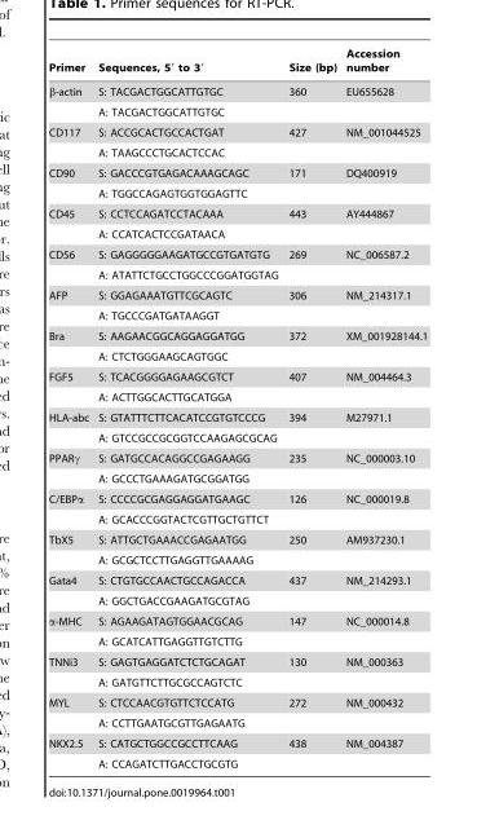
<table><thead><tr><td>Primer</td><td>Sequences, 5′ to 3′</td><td>Size (bp)</td><td>Accession number</td></tr></thead><tbody><tr><td rowspan="2">β-actin</td><td>S: TACGACTGGCATTGTGC</td><td>360</td><td>EU655628</td></tr><tr><td>A: TACGACTGGCATTGTGC</td><td></td><td></td></tr><tr><td rowspan="2">CD117</td><td>S: ACCGCACTGCCACTGAT</td><td>427</td><td>NM_001044525</td></tr><tr><td>A: TAAGCCCTGCACTCCAC</td><td></td><td></td></tr><tr><td rowspan="2">CD90</td><td>S: GACCCGTGAGACAAAGCAGC</td><td>171</td><td>DQ400919</td></tr><tr><td>A: TGGCCAGAGTGGTGGAGTTC</td><td></td><td></td></tr><tr><td rowspan="2">CD45</td><td>S: CCTCCAGATCCTACAAA</td><td>443</td><td>AY444867</td></tr><tr><td>A: CCATCACTCCGATAACA</td><td></td><td></td></tr><tr><td rowspan="2">CD56</td><td>S: GAGGGGGAAGATGCCGTGATGTG</td><td>269</td><td>NC_006587.2</td></tr><tr><td>A: ATATTCTGCCTGGCCCGGATGGTAG</td><td></td><td></td></tr><tr><td rowspan="2">AFP</td><td>S: GGAGAAATGTTCGCAGTC</td><td>306</td><td>NM_214317.1</td></tr><tr><td>A: TGCCCGATGATAAGGT</td><td></td><td></td></tr><tr><td rowspan="2">Bra</td><td>S: AAGAACGGCAGGAGGATGG</td><td>372</td><td>XM_001928144.1</td></tr><tr><td>A: CTCTGGGAAGCAGTGGC</td><td></td><td></td></tr><tr><td rowspan="2">FGF5</td><td>S: TCACGGGGAGAAGCGTCT</td><td>407</td><td>NM_004464.3</td></tr><tr><td>A: ACTTGGCACTTGCATGGA</td><td></td><td></td></tr><tr><td rowspan="2">HLA-abc</td><td>S: GTATTTCTTCACATCCGTGTCCCG</td><td>394</td><td>M27971.1</td></tr><tr><td>A: GTCCGCCGCGGTCCAAGAGCGCAG</td><td></td><td></td></tr><tr><td rowspan="2">PPARγ</td><td>S: GATGCCACAGGCCGAGAAGG</td><td>235</td><td>NC_000003.10</td></tr><tr><td>A: GCCCTGAAAGATGCGGATGG</td><td></td><td></td></tr><tr><td rowspan="2">C/EBPα</td><td>S: CCCCGCGAGGAGGATGAAGC</td><td>126</td><td>NC_000019.8</td></tr><tr><td>A: GCACCCGGTACTCGTTGCTGTTCT</td><td></td><td></td></tr><tr><td rowspan="2">TbX5</td><td>S: ATTGCTGAAACCGAGAATGG</td><td>250</td><td>AM937230.1</td></tr><tr><td>A: GCGCTCCTTGAGGTTGAAAAG</td><td></td><td></td></tr><tr><td rowspan="2">Gata4</td><td>S: CTGTGCCAACTGCCAGACCA</td><td>437</td><td>NM_214293.1</td></tr><tr><td>A: GGCTGACCGAAGATGCGTAG</td><td></td><td></td></tr><tr><td rowspan="2">α-MHC</td><td>S: AGAAGATAGTGGAACGCAG</td><td>147</td><td>NC_000014.8</td></tr><tr><td>A: GCATCATTGAGGTTGTCTTG</td><td></td><td></td></tr><tr><td rowspan="2">TNNi3</td><td>S: GAGTGAGGATCTCTGCAGAT</td><td>130</td><td>NM_000363</td></tr><tr><td>A: GATGTTCTTGCGCCAGTCTC</td><td></td><td></td></tr><tr><td rowspan="2">MYL</td><td>S: CTCCAACGTGTTCTCCATG</td><td>272</td><td>NM_000432</td></tr><tr><td>A: CCTTGAATGCGTTGAGAATG</td><td></td><td></td></tr><tr><td rowspan="2">NKX2.5</td><td>S: CATGCTGGCCGCCTTCAAG</td><td>438</td><td>NM_004387</td></tr><tr><td>A: CCAGATCTTGACCTGCGTG</td><td></td><td></td></tr></tbody></table>